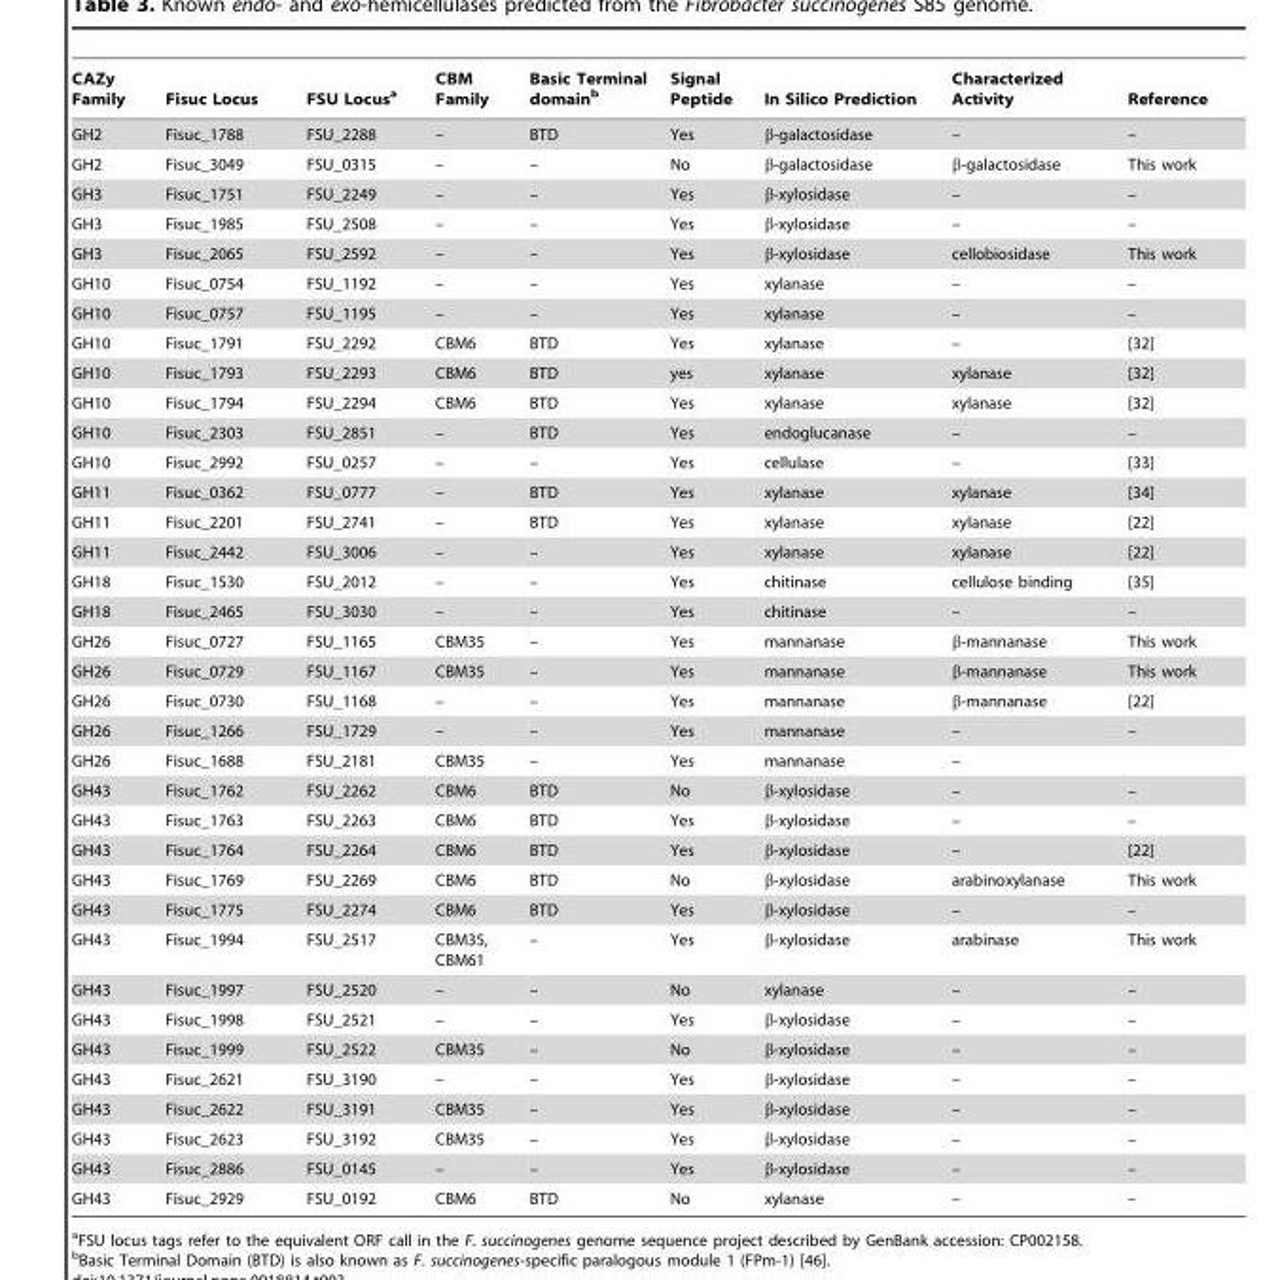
<table><thead><tr><td>CAZy Family</td><td>Fisuc Locus</td><td>FSU Locus<sup>a</sup></td><td>CBM Family</td><td>Basic Terminal domain<sup>b</sup></td><td>Signal Peptide</td><td>In Silico Prediction</td><td>Characterized Activity</td><td>Reference</td></tr></thead><tbody><tr><td>GH2</td><td>Fisuc_1788</td><td>FSU_2288</td><td>–</td><td>BTD</td><td>Yes</td><td>β-galactosidase</td><td>–</td><td>–</td></tr><tr><td>GH2</td><td>Fisuc_3049</td><td>FSU_0315</td><td>–</td><td>–</td><td>No</td><td>β-galactosidase</td><td>β-galactosidase</td><td>This work</td></tr><tr><td>GH3</td><td>Fisuc_1751</td><td>FSU_2249</td><td>–</td><td>–</td><td>Yes</td><td>β-xylosidase</td><td>–</td><td>–</td></tr><tr><td>GH3</td><td>Fisuc_1985</td><td>FSU_2508</td><td>–</td><td>–</td><td>Yes</td><td>β-xylosidase</td><td>–</td><td>–</td></tr><tr><td>GH3</td><td>Fisuc_2065</td><td>FSU_2592</td><td>–</td><td>–</td><td>Yes</td><td>β-xylosidase</td><td>cellobiosidase</td><td>This work</td></tr><tr><td>GH10</td><td>Fisuc_0754</td><td>FSU_1192</td><td>–</td><td>–</td><td>Yes</td><td>xylanase</td><td>–</td><td>–</td></tr><tr><td>GH10</td><td>Fisuc_0757</td><td>FSU_1195</td><td>–</td><td>–</td><td>Yes</td><td>xylanase</td><td>–</td><td>–</td></tr><tr><td>GH10</td><td>Fisuc_1791</td><td>FSU_2292</td><td>CBM6</td><td>BTD</td><td>Yes</td><td>xylanase</td><td>–</td><td>[32]</td></tr><tr><td>GH10</td><td>Fisuc_1793</td><td>FSU_2293</td><td>CBM6</td><td>BTD</td><td>yes</td><td>xylanase</td><td>xylanase</td><td>[32]</td></tr><tr><td>GH10</td><td>Fisuc_1794</td><td>FSU_2294</td><td>CBM6</td><td>BTD</td><td>Yes</td><td>xylanase</td><td>xylanase</td><td>[32]</td></tr><tr><td>GH10</td><td>Fisuc_2303</td><td>FSU_2851</td><td>–</td><td>BTD</td><td>Yes</td><td>endoglucanase</td><td>–</td><td>–</td></tr><tr><td>GH10</td><td>Fisuc_2992</td><td>FSU_0257</td><td>–</td><td>–</td><td>Yes</td><td>cellulase</td><td>–</td><td>[33]</td></tr><tr><td>GH11</td><td>Fisuc_0362</td><td>FSU_0777</td><td>–</td><td>BTD</td><td>Yes</td><td>xylanase</td><td>xylanase</td><td>[34]</td></tr><tr><td>GH11</td><td>Fisuc_2201</td><td>FSU_2741</td><td>–</td><td>BTD</td><td>Yes</td><td>xylanase</td><td>xylanase</td><td>[22]</td></tr><tr><td>GH11</td><td>Fisuc_2442</td><td>FSU_3006</td><td>–</td><td>–</td><td>Yes</td><td>xylanase</td><td>xylanase</td><td>[22]</td></tr><tr><td>GH18</td><td>Fisuc_1530</td><td>FSU_2012</td><td>–</td><td>–</td><td>Yes</td><td>chitinase</td><td>cellulose binding</td><td>[35]</td></tr><tr><td>GH18</td><td>Fisuc_2465</td><td>FSU_3030</td><td>–</td><td>–</td><td>Yes</td><td>chitinase</td><td>–</td><td>–</td></tr><tr><td>GH26</td><td>Fisuc_0727</td><td>FSU_1165</td><td>CBM35</td><td>–</td><td>Yes</td><td>mannanase</td><td>β-mannanase</td><td>This work</td></tr><tr><td>GH26</td><td>Fisuc_0729</td><td>FSU_1167</td><td>CBM35</td><td>–</td><td>Yes</td><td>mannanase</td><td>β-mannanase</td><td>This work</td></tr><tr><td>GH26</td><td>Fisuc_0730</td><td>FSU_1168</td><td>–</td><td>–</td><td>Yes</td><td>mannanase</td><td>β-mannanase</td><td>[22]</td></tr><tr><td>GH26</td><td>Fisuc_1266</td><td>FSU_1729</td><td>–</td><td>–</td><td>Yes</td><td>mannanase</td><td>–</td><td>–</td></tr><tr><td>GH26</td><td>Fisuc_1688</td><td>FSU_2181</td><td>CBM35</td><td>–</td><td>Yes</td><td>mannanase</td><td>–</td><td></td></tr><tr><td>GH43</td><td>Fisuc_1762</td><td>FSU_2262</td><td>CBM6</td><td>BTD</td><td>No</td><td>β-xylosidase</td><td>–</td><td>–</td></tr><tr><td>GH43</td><td>Fisuc_1763</td><td>FSU_2263</td><td>CBM6</td><td>BTD</td><td>Yes</td><td>β-xylosidase</td><td>–</td><td>–</td></tr><tr><td>GH43</td><td>Fisuc_1764</td><td>FSU_2264</td><td>CBM6</td><td>BTD</td><td>Yes</td><td>β-xylosidase</td><td>–</td><td>[22]</td></tr><tr><td>GH43</td><td>Fisuc_1769</td><td>FSU_2269</td><td>CBM6</td><td>BTD</td><td>No</td><td>β-xylosidase</td><td>arabinoxylanase</td><td>This work</td></tr><tr><td>GH43</td><td>Fisuc_1775</td><td>FSU_2274</td><td>CBM6</td><td>BTD</td><td>Yes</td><td>β-xylosidase</td><td>–</td><td>–</td></tr><tr><td>GH43</td><td>Fisuc_1994</td><td>FSU_2517</td><td>CBM35, CBM61</td><td>–</td><td>Yes</td><td>β-xylosidase</td><td>arabinase</td><td>This work</td></tr><tr><td>GH43</td><td>Fisuc_1997</td><td>FSU_2520</td><td>–</td><td>–</td><td>No</td><td>xylanase</td><td>–</td><td>–</td></tr><tr><td>GH43</td><td>Fisuc_1998</td><td>FSU_2521</td><td>–</td><td>–</td><td>Yes</td><td>β-xylosidase</td><td>–</td><td>–</td></tr><tr><td>GH43</td><td>Fisuc_1999</td><td>FSU_2522</td><td>CBM35</td><td>–</td><td>No</td><td>β-xylosidase</td><td>–</td><td>–</td></tr><tr><td>GH43</td><td>Fisuc_2621</td><td>FSU_3190</td><td>–</td><td>–</td><td>Yes</td><td>β-xylosidase</td><td>–</td><td>–</td></tr><tr><td>GH43</td><td>Fisuc_2622</td><td>FSU_3191</td><td>CBM35</td><td>–</td><td>Yes</td><td>β-xylosidase</td><td>–</td><td>–</td></tr><tr><td>GH43</td><td>Fisuc_2623</td><td>FSU_3192</td><td>CBM35</td><td>–</td><td>Yes</td><td>β-xylosidase</td><td>–</td><td>–</td></tr><tr><td>GH43</td><td>Fisuc_2886</td><td>FSU_0145</td><td>–</td><td>–</td><td>Yes</td><td>β-xylosidase</td><td>–</td><td>–</td></tr><tr><td>GH43</td><td>Fisuc_2929</td><td>FSU_0192</td><td>CBM6</td><td>BTD</td><td>No</td><td>xylanase</td><td>–</td><td>–</td></tr></tbody></table>